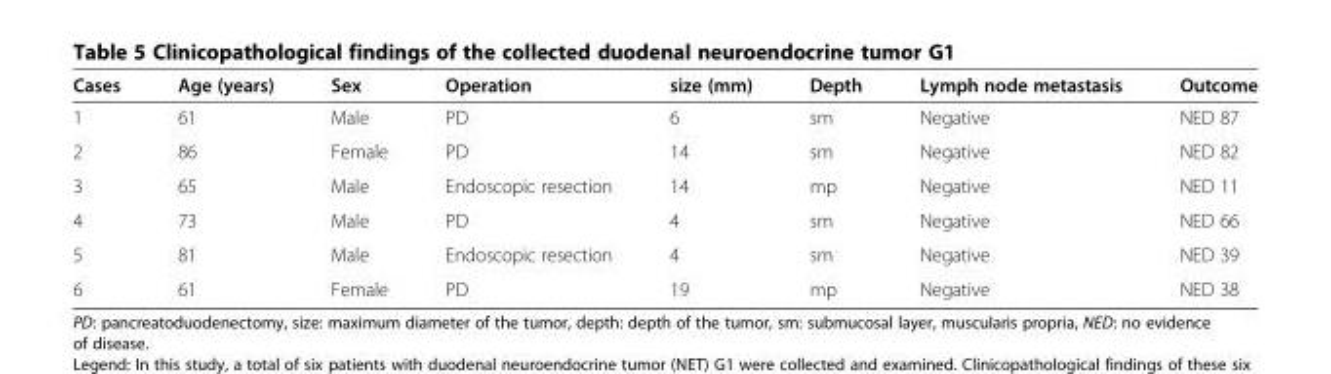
<table><thead><tr><td>Cases</td><td>Age (years)</td><td>Sex</td><td>Operation</td><td>size (mm)</td><td>Depth</td><td>Lymph node metastasis</td><td>Outcome</td></tr></thead><tbody><tr><td>1</td><td>61</td><td>Male</td><td>PD</td><td>6</td><td>sm</td><td>Negative</td><td>NED 87</td></tr><tr><td>2</td><td>86</td><td>Female</td><td>PD</td><td>14</td><td>sm</td><td>Negative</td><td>NED 82</td></tr><tr><td>3</td><td>65</td><td>Male</td><td>Endoscopic resection</td><td>14</td><td>mp</td><td>Negative</td><td>NED 11</td></tr><tr><td>4</td><td>73</td><td>Male</td><td>PD</td><td>4</td><td>sm</td><td>Negative</td><td>NED 66</td></tr><tr><td>5</td><td>81</td><td>Male</td><td>Endoscopic resection</td><td>4</td><td>sm</td><td>Negative</td><td>NED 39</td></tr><tr><td>6</td><td>61</td><td>Female</td><td>PD</td><td>19</td><td>mp</td><td>Negative</td><td>NED 38</td></tr></tbody></table>